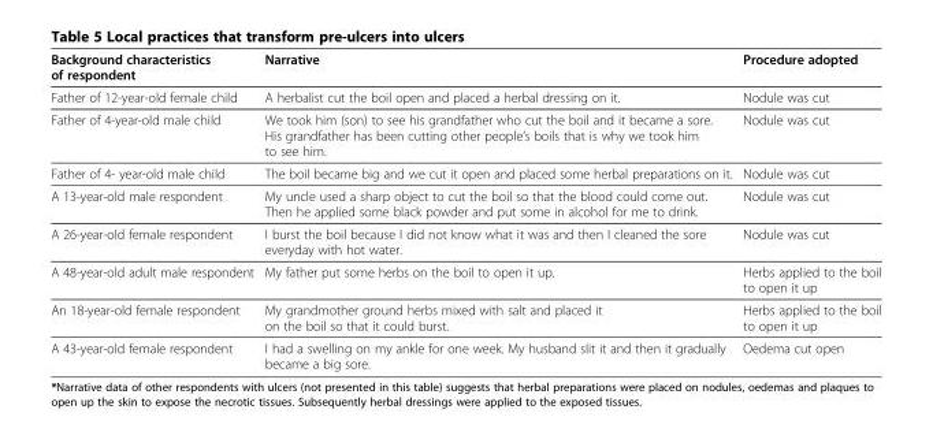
<table><thead><tr><td>Background characteristics of respondent</td><td>Narrative</td><td>Procedure adopted</td></tr></thead><tbody><tr><td>Father of 12-year-old female child</td><td>A herbalist cut the boil open and placed a herbal dressing on it.</td><td>Nodule was cut</td></tr><tr><td>Father of 4-year-old male child</td><td>We took him (son) to see his grandfather who cut the boil and it became a sore. His grandfather has been cutting other people’s boils that is why we took him to see him.</td><td>Nodule was cut</td></tr><tr><td>Father of 4- year-old male child</td><td>The boil became big and we cut it open and placed some herbal preparations on it.</td><td>Nodule was cut</td></tr><tr><td>A 13-year-old male respondent</td><td>My uncle used a sharp object to cut the boil so that the blood could come out. Then he applied some black powder and put some in alcohol for me to drink.</td><td>Nodule was cut</td></tr><tr><td>A 26-year-old female respondent</td><td>I burst the boil because I did not know what it was and then I cleaned the sore everyday with hot water.</td><td>Nodule was cut</td></tr><tr><td>A 48-year-old adult male respondent</td><td>My father put some herbs on the boil to open it up.</td><td>Herbs applied to the boil to open it up</td></tr><tr><td>An 18-year-old female respondent</td><td>My grandmother ground herbs mixed with salt and placed it on the boil so that it could burst.</td><td>Herbs applied to the boil to open it up</td></tr><tr><td>A 43-year-old female respondent</td><td>I had a swelling on my ankle for one week. My husband slit it and then it gradually became a big sore.</td><td>Oedema cut open</td></tr></tbody></table>